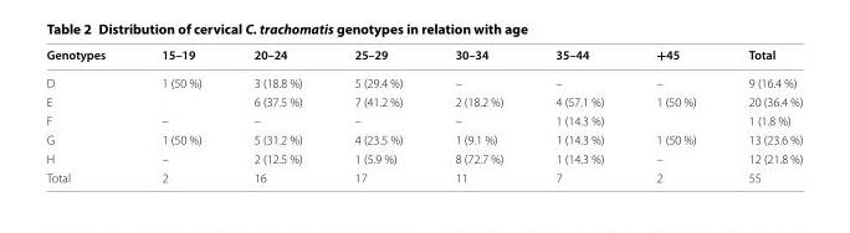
<table><thead><tr><td>Genotypes</td><td>15–19</td><td>20–24</td><td>25–29</td><td>30–34</td><td>35–44</td><td>+45</td><td>Total</td></tr></thead><tbody><tr><td>D</td><td>1 (50 %)</td><td>3 (18.8 %)</td><td>5 (29.4 %)</td><td>–</td><td>–</td><td>–</td><td>9 (16.4 %)</td></tr><tr><td>E</td><td></td><td>6 (37.5 %)</td><td>7 (41.2 %)</td><td>2 (18.2 %)</td><td>4 (57.1 %)</td><td>1 (50 %)</td><td>20 (36.4 %)</td></tr><tr><td>F</td><td>–</td><td>–</td><td>–</td><td>–</td><td>1 (14.3 %)</td><td></td><td>1 (1.8 %)</td></tr><tr><td>G</td><td>1 (50 %)</td><td>5 (31.2 %)</td><td>4 (23.5 %)</td><td>1 (9.1 %)</td><td>1 (14.3 %)</td><td>1 (50 %)</td><td>13 (23.6 %)</td></tr><tr><td>H</td><td>–</td><td>2 (12.5 %)</td><td>1 (5.9 %)</td><td>8 (72.7 %)</td><td>1 (14.3 %)</td><td>–</td><td>12 (21.8 %)</td></tr><tr><td>Total</td><td>2</td><td>16</td><td>17</td><td>11</td><td>7</td><td>2</td><td>55</td></tr></tbody></table>